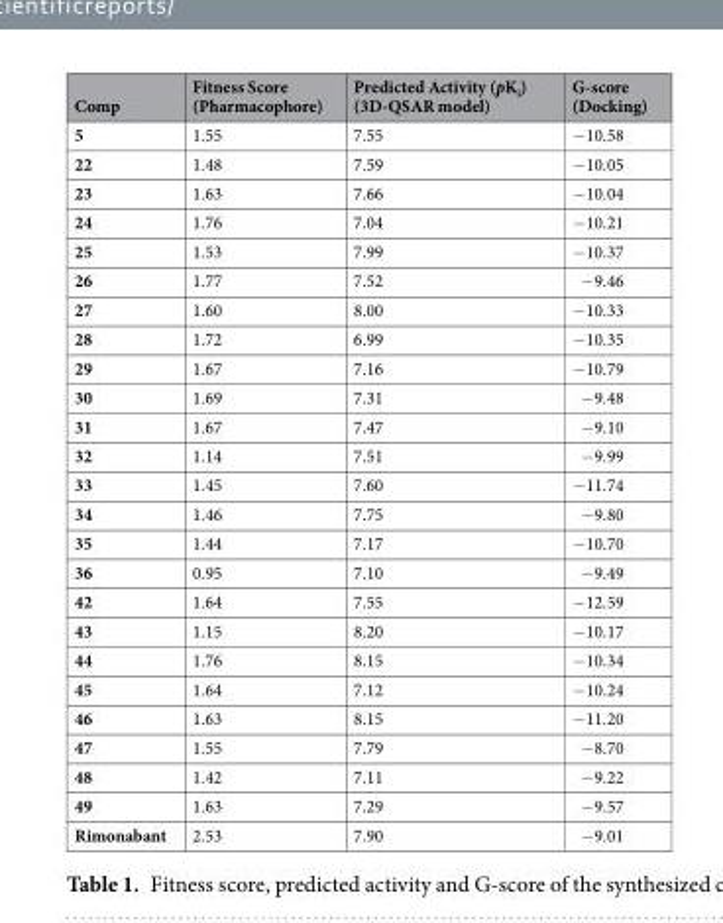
<table><thead><tr><td>Comp</td><td>Fitness Score (Pharmacophore)</td><td>Predicted Activity (pK<sub>i</sub>) (3D-QSAR model)</td><td>G-score (Docking)</td></tr></thead><tbody><tr><td>5</td><td>1.55</td><td>7.55</td><td>−10.58</td></tr><tr><td>22</td><td>1.48</td><td>7.59</td><td>−10.05</td></tr><tr><td>23</td><td>1.63</td><td>7.66</td><td>−10.04</td></tr><tr><td>24</td><td>1.76</td><td>7.04</td><td>−10.21</td></tr><tr><td>25</td><td>1.53</td><td>7.99</td><td>−10.37</td></tr><tr><td>26</td><td>1.77</td><td>7.52</td><td>−9.46</td></tr><tr><td>27</td><td>1.60</td><td>8.00</td><td>−10.33</td></tr><tr><td>28</td><td>1.72</td><td>6.99</td><td>−10.35</td></tr><tr><td>29</td><td>1.67</td><td>7.16</td><td>−10.79</td></tr><tr><td>30</td><td>1.69</td><td>7.31</td><td>−9.48</td></tr><tr><td>31</td><td>1.67</td><td>7.47</td><td>−9.10</td></tr><tr><td>32</td><td>1.14</td><td>7.51</td><td>−9.99</td></tr><tr><td>33</td><td>1.45</td><td>7.60</td><td>−11.74</td></tr><tr><td>34</td><td>1.46</td><td>7.75</td><td>−9.80</td></tr><tr><td>35</td><td>1.44</td><td>7.17</td><td>−10.70</td></tr><tr><td>36</td><td>0.95</td><td>7.10</td><td>−9.49</td></tr><tr><td>42</td><td>1.64</td><td>7.55</td><td>−12.59</td></tr><tr><td>43</td><td>1.15</td><td>8.20</td><td>−10.17</td></tr><tr><td>44</td><td>1.76</td><td>8.15</td><td>−10.34</td></tr><tr><td>45</td><td>1.64</td><td>7.12</td><td>−10.24</td></tr><tr><td>46</td><td>1.63</td><td>8.15</td><td>−11.20</td></tr><tr><td>47</td><td>1.55</td><td>7.79</td><td>−8.70</td></tr><tr><td>48</td><td>1.42</td><td>7.11</td><td>−9.22</td></tr><tr><td>49</td><td>1.63</td><td>7.29</td><td>−9.57</td></tr><tr><td>Rimonabant</td><td>2.53</td><td>7.90</td><td>−9.01</td></tr></tbody></table>